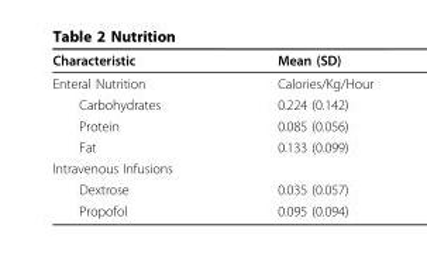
<table><thead><tr><td>Characteristic</td><td>Mean (SD)</td></tr></thead><tbody><tr><td>Enteral Nutrition</td><td>Calories/Kg/Hour</td></tr><tr><td>Carbohydrates</td><td>0.224 (0.142)</td></tr><tr><td>Protein</td><td>0.085 (0.056)</td></tr><tr><td>Fat</td><td>0.133 (0.099)</td></tr><tr><td colspan="2">Intravenous Infusions</td></tr><tr><td>Dextrose</td><td>0.035 (0.057)</td></tr><tr><td>Propofol</td><td>0.095 (0.094)</td></tr></tbody></table>